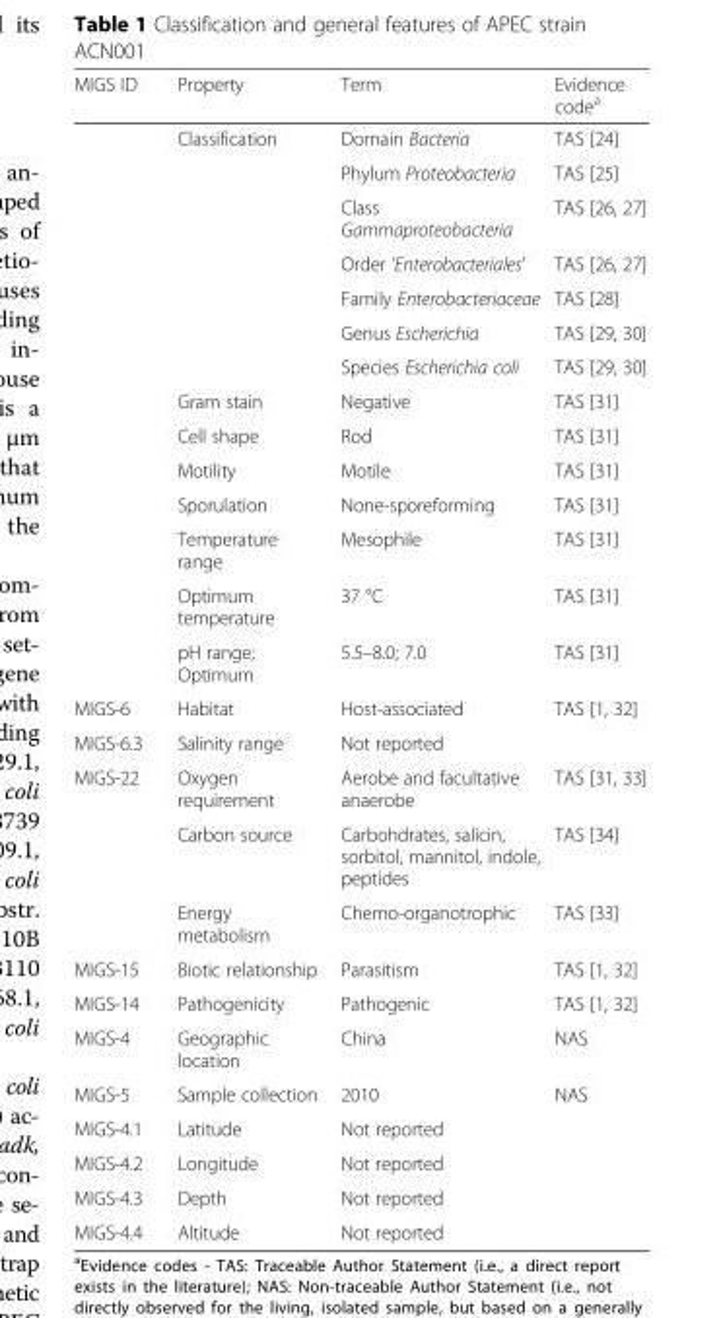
<table><thead><tr><td>MIGS ID</td><td>Property</td><td>Term</td><td>Evidence code<sup>a</sup></td></tr></thead><tbody><tr><td></td><td>Classification</td><td>Domain Bacteria</td><td>TAS [24]</td></tr><tr><td></td><td></td><td>Phylum Proteobacteria</td><td>TAS [25]</td></tr><tr><td></td><td></td><td>Class Gammaproteobacteria</td><td>TAS [26, 27]</td></tr><tr><td></td><td></td><td>Order ‘Enterobacteriales’</td><td>TAS [26, 27]</td></tr><tr><td></td><td></td><td>Family Enterobacteriaceae</td><td>TAS [28]</td></tr><tr><td></td><td></td><td>Genus Escherichia</td><td>TAS [29, 30]</td></tr><tr><td></td><td></td><td>Species Escherichia coli</td><td>TAS [29, 30]</td></tr><tr><td></td><td>Gram stain</td><td>Negative</td><td>TAS [31]</td></tr><tr><td></td><td>Cell shape</td><td>Rod</td><td>TAS [31]</td></tr><tr><td></td><td>Motility</td><td>Motile</td><td>TAS [31]</td></tr><tr><td></td><td>Sporulation</td><td>None-sporeforming</td><td>TAS [31]</td></tr><tr><td></td><td>Temperature range</td><td>Mesophile</td><td>TAS [31]</td></tr><tr><td></td><td>Optimum temperature</td><td>37 °C</td><td>TAS [31]</td></tr><tr><td></td><td>pH range; Optimum</td><td>5.5–8.0; 7.0</td><td>TAS [31]</td></tr><tr><td>MIGS-6</td><td>Habitat</td><td>Host-associated</td><td>TAS [1, 32]</td></tr><tr><td>MIGS-6.3</td><td>Salinity range</td><td>Not reported</td><td></td></tr><tr><td rowspan="3">MIGS-22</td><td>Oxygen requirement</td><td>Aerobe and facultative anaerobe</td><td>TAS [31, 33]</td></tr><tr><td>Carbon source</td><td>Carbohdrates, salicin, sorbitol, mannitol, indole, peptides</td><td>TAS [34]</td></tr><tr><td>Energy metabolism</td><td>Chemo-organotrophic</td><td>TAS [33]</td></tr><tr><td>MIGS-15</td><td>Biotic relationship</td><td>Parasitism</td><td>TAS [1, 32]</td></tr><tr><td>MIGS-14</td><td>Pathogenicity</td><td>Pathogenic</td><td>TAS [1, 32]</td></tr><tr><td>MIGS-4</td><td>Geographic location</td><td>China</td><td>NAS</td></tr><tr><td>MIGS-5</td><td>Sample collection</td><td>2010</td><td>NAS</td></tr><tr><td>MIGS-4.1</td><td>Latitude</td><td>Not reported</td><td></td></tr><tr><td>MIGS-4.2</td><td>Longitude</td><td>Not reported</td><td></td></tr><tr><td>MIGS-4.3</td><td>Depth</td><td>Not reported</td><td></td></tr><tr><td>MIGS-4.4</td><td>Altitude</td><td>Not reported</td><td></td></tr></tbody></table>